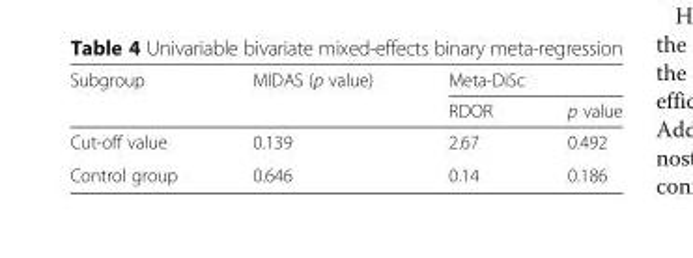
<table><thead><tr><td rowspan="2">Subgroup</td><td rowspan="2">MIDAS (p value)</td><td colspan="2">Meta-DiSc</td></tr><tr><td>RDOR</td><td>p value</td></tr></thead><tbody><tr><td>Cut-off value</td><td>0.139</td><td>2.67</td><td>0.492</td></tr><tr><td>Control group</td><td>0.646</td><td>0.14</td><td>0.186</td></tr></tbody></table>